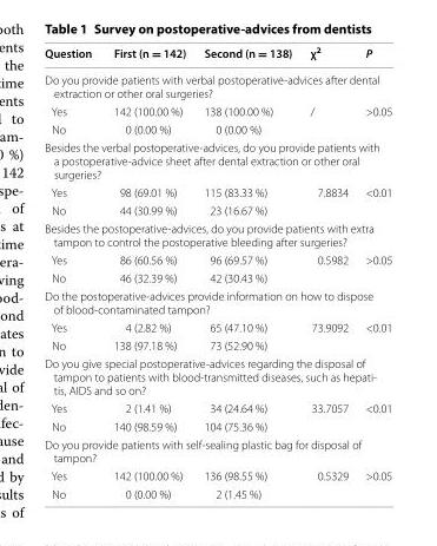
<table><thead><tr><td>Question</td><td>First (n = 142)</td><td>Second (n = 138)</td><td>χ<sup>2</sup></td><td>P</td></tr></thead><tbody><tr><td colspan="5">Do you provide patients with verbal postoperative‑advices after dental extraction or other oral surgeries?</td></tr><tr><td>Yes</td><td>142 (100.00 %)</td><td>138 (100.00 %)</td><td>/</td><td>&gt;0.05</td></tr><tr><td>No</td><td>0 (0.00 %)</td><td>0 (0.00 %)</td><td></td><td></td></tr><tr><td colspan="5">Besides the verbal postoperative‑advices, do you provide patients with a postoperative‑advice sheet after dental extraction or other oral surgeries?</td></tr><tr><td>Yes</td><td>98 (69.01 %)</td><td>115 (83.33 %)</td><td>7.8834</td><td>&lt;0.01</td></tr><tr><td>No</td><td>44 (30.99 %)</td><td>23 (16.67 %)</td><td></td><td></td></tr><tr><td colspan="5">Besides the postoperative‑advices, do you provide patients with extra tampon to control the postoperative bleeding after surgeries?</td></tr><tr><td>Yes</td><td>86 (60.56 %)</td><td>96 (69.57 %)</td><td>0.5982</td><td>&gt;0.05</td></tr><tr><td>No</td><td>46 (32.39 %)</td><td>42 (30.43 %)</td><td></td><td></td></tr><tr><td colspan="5">Do the postoperative‑advices provide information on how to dispose of blood‑contaminated tampon?</td></tr><tr><td>Yes</td><td>4 (2.82 %)</td><td>65 (47.10 %)</td><td>73.9092</td><td>&lt;0.01</td></tr><tr><td>No</td><td>138 (97.18 %)</td><td>73 (52.90 %)</td><td></td><td></td></tr><tr><td colspan="5">Do you give special postoperative‑advices regarding the disposal of tampon to patients with blood‑transmitted diseases, such as hepati‑ tis, AIDS and so on?</td></tr><tr><td>Yes</td><td>2 (1.41 %)</td><td>34 (24.64 %)</td><td>33.7057</td><td>&lt;0.01</td></tr><tr><td>No</td><td>140 (98.59 %)</td><td>104 (75.36 %)</td><td></td><td></td></tr><tr><td colspan="5">Do you provide patients with self‑sealing plastic bag for disposal of tampon?</td></tr><tr><td>Yes</td><td>142 (100.00 %)</td><td>136 (98.55 %)</td><td>0.5329</td><td>&gt;0.05</td></tr><tr><td>No</td><td>0 (0.00 %)</td><td>2 (1.45 %)</td><td></td><td></td></tr></tbody></table>